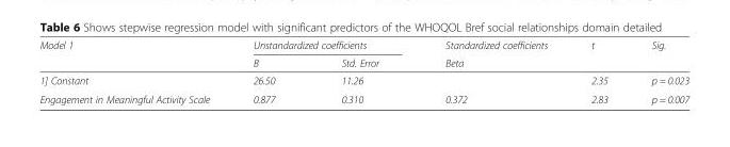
<table><thead><tr><td rowspan="2">Model 1</td><td colspan="2">Unstandardized coefficients</td><td rowspan="2">Standardized coefficients Beta</td><td rowspan="2">t</td><td rowspan="2">Sig.</td></tr><tr><td>B</td><td>Std. Error</td></tr></thead><tbody><tr><td>1] Constant</td><td>26.50</td><td>11.26</td><td></td><td>2.35</td><td>p = 0.023</td></tr><tr><td>Engagement in Meaningful Activity Scale</td><td>0.877</td><td>0.310</td><td>0.372</td><td>2.83</td><td>p = 0.007</td></tr></tbody></table>